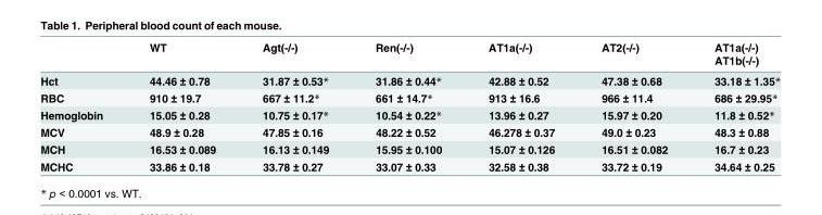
<table><thead><tr><td rowspan="2"></td><td rowspan="2">WT</td><td rowspan="2">Agt(-/-)</td><td rowspan="2">Ren(-/-)</td><td rowspan="2">AT1a(-/-)</td><td rowspan="2">AT2(-/-)</td><td rowspan="2">AT1a(-/-) AT1b(-/-)</td></tr><tr></tr></thead><tbody><tr><td>Hct</td><td>44.46 ± 0.78</td><td>31.87 ± 0.53*</td><td>31.86 ± 0.44*</td><td>42.88 ± 0.52</td><td>47.38 ± 0.68</td><td>33.18 ± 1.35*</td></tr><tr><td>RBC</td><td>910 ± 19.7</td><td>667 ± 11.2*</td><td>661 ± 14.7*</td><td>913 ± 16.6</td><td>966 ± 11.4</td><td>686 ± 29.95*</td></tr><tr><td>Hemoglobin</td><td>15.05 ± 0.28</td><td>10.75 ± 0.17*</td><td>10.54 ± 0.22*</td><td>13.96 ± 0.27</td><td>15.97 ± 0.20</td><td>11.8 ± 0.52*</td></tr><tr><td>MCV</td><td>48.9 ± 0.28</td><td>47.85 ± 0.16</td><td>48.22 ± 0.52</td><td>46.278 ± 0.37</td><td>49.0 ± 0.23</td><td>48.3 ± 0.88</td></tr><tr><td>MCH</td><td>16.53 ± 0.089</td><td>16.13 ± 0.149</td><td>15.95 ± 0.100</td><td>15.07 ± 0.126</td><td>16.51 ± 0.082</td><td>16.7 ± 0.23</td></tr><tr><td>MCHC</td><td>33.86 ± 0.18</td><td>33.78 ± 0.27</td><td>33.07 ± 0.33</td><td>32.58 ± 0.38</td><td>33.72 ± 0.19</td><td>34.64 ± 0.25</td></tr></tbody></table>